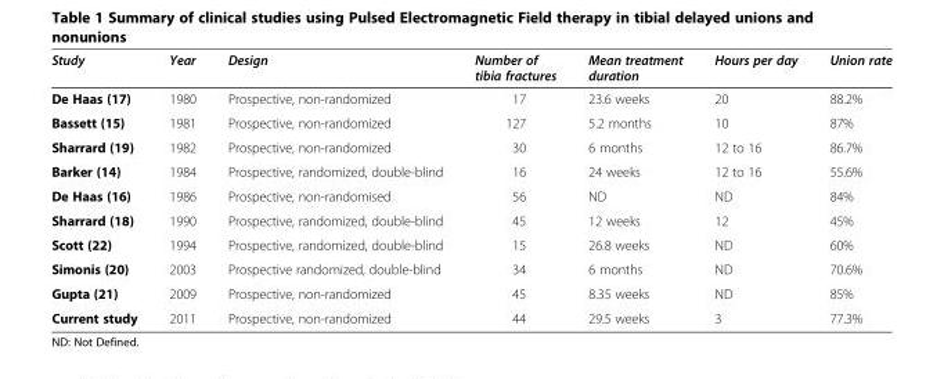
<table><thead><tr><td>Study</td><td>Year</td><td>Design</td><td>Number of tibia fractures</td><td>Mean treatment duration</td><td>Hours per day</td><td>Union rate</td></tr></thead><tbody><tr><td>De Haas (17)</td><td>1980</td><td>Prospective, non-randomized</td><td>17</td><td>23.6 weeks</td><td>20</td><td>88.2%</td></tr><tr><td>Bassett (15)</td><td>1981</td><td>Prospective, non-randomized</td><td>127</td><td>5.2 months</td><td>10</td><td>87%</td></tr><tr><td>Sharrard (19)</td><td>1982</td><td>Prospective, non-randomized</td><td>30</td><td>6 months</td><td>12 to 16</td><td>86.7%</td></tr><tr><td>Barker (14)</td><td>1984</td><td>Prospective, randomized, double-blind</td><td>16</td><td>24 weeks</td><td>12 to 16</td><td>55.6%</td></tr><tr><td>De Haas (16)</td><td>1986</td><td>Prospective, non-randomised</td><td>56</td><td>ND</td><td>ND</td><td>84%</td></tr><tr><td>Sharrard (18)</td><td>1990</td><td>Prospective, randomized, double-blind</td><td>45</td><td>12 weeks</td><td>12</td><td>45%</td></tr><tr><td>Scott (22)</td><td>1994</td><td>Prospective, randomized, double-blind</td><td>15</td><td>26.8 weeks</td><td>ND</td><td>60%</td></tr><tr><td>Simonis (20)</td><td>2003</td><td>Prospective randomized, double-blind</td><td>34</td><td>6 months</td><td>ND</td><td>70.6%</td></tr><tr><td>Gupta (21)</td><td>2009</td><td>Prospective, non-randomized</td><td>45</td><td>8.35 weeks</td><td>ND</td><td>85%</td></tr><tr><td>Current study</td><td>2011</td><td>Prospective, non-randomized</td><td>44</td><td>29.5 weeks</td><td>3</td><td>77.3%</td></tr></tbody></table>